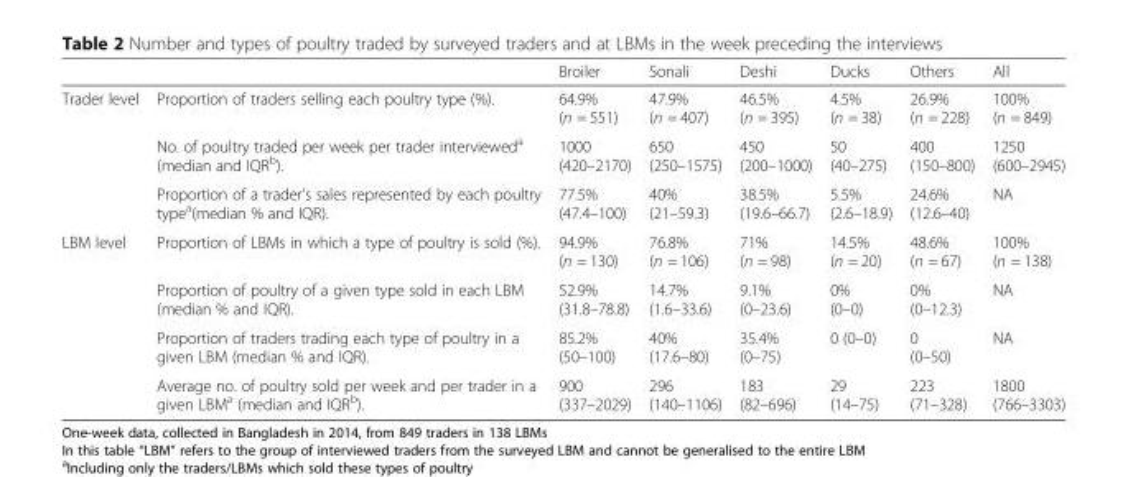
<table><thead><tr><td></td><td></td><td>Broiler</td><td>Sonali</td><td>Deshi</td><td>Ducks</td><td>Others</td><td>All</td></tr></thead><tbody><tr><td rowspan="3">Trader level</td><td>Proportion of traders selling each poultry type (%).</td><td>64.9% (n = 551)</td><td>47.9% (n = 407)</td><td>46.5% (n = 395)</td><td>4.5% (n = 38)</td><td>26.9% (n = 228)</td><td>100% (n = 849)</td></tr><tr><td>No. of poultry traded per week per trader interviewed<sup>a</sup> (median and IQR<sup>b</sup>).</td><td>1000 (420–2170)</td><td>650 (250–1575)</td><td>450 (200–1000)</td><td>50 (40–275)</td><td>400 (150–800)</td><td>1250 (600–2945)</td></tr><tr><td>Proportion of a trader’s sales represented by each poultry type<sup>a</sup>(median % and IQR).</td><td>77.5% (47.4–100)</td><td>40% (21–59.3)</td><td>38.5% (19.6–66.7)</td><td>5.5% (2.6–18.9)</td><td>24.6% (12.6–40)</td><td>NA</td></tr><tr><td rowspan="4">LBM level</td><td>Proportion of LBMs in which a type of poultry is sold (%).</td><td>94.9% (n = 130)</td><td>76.8% (n = 106)</td><td>71% (n = 98)</td><td>14.5% (n = 20)</td><td>48.6% (n = 67)</td><td>100% (n = 138)</td></tr><tr><td>Proportion of poultry of a given type sold in each LBM (median % and IQR).</td><td>52.9% (31.8–78.8)</td><td>14.7% (1.6–33.6)</td><td>9.1% (0–23.6)</td><td>0% (0–0)</td><td>0% (0–12.3)</td><td>NA</td></tr><tr><td>Proportion of traders trading each type of poultry in a given LBM (median % and IQR).</td><td>85.2% (50–100)</td><td>40% (17.6–80)</td><td>35.4% (0–75)</td><td>0 (0–0)</td><td>0 (0–50)</td><td>NA</td></tr><tr><td>Average no. of poultry sold per week and per trader in a given LBM<sup>a</sup> (median and IQR<sup>b</sup>).</td><td>900 (337–2029)</td><td>296 (140–1106)</td><td>183 (82–696)</td><td>29 (14–75)</td><td>223 (71–328)</td><td>1800 (766–3303)</td></tr></tbody></table>